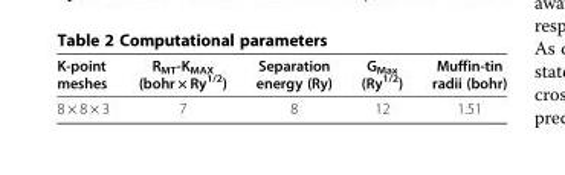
<table><thead><tr><td>K-point meshes</td><td>R<sub>MT</sub>-K<sub>MAX</sub> (bohr × Ry<sup>1/2</sup>)</td><td>Separation energy (Ry)</td><td>G<sub>Max</sub> (Ry<sup>1/2</sup>)</td><td>Muffin-tin radii (bohr)</td></tr></thead><tbody><tr><td>8 × 8 × 3</td><td>7</td><td>8</td><td>12</td><td>1.51</td></tr></tbody></table>